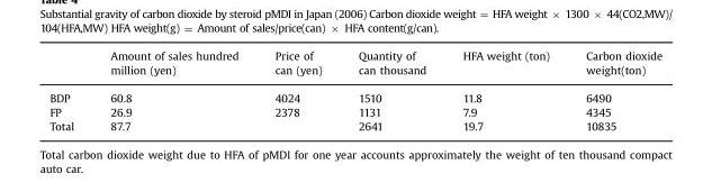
<table><thead><tr><td></td><td>Amount of sales hundred million (yen)</td><td>Price of can (yen)</td><td>Quantity of can thousand</td><td>HFA weight (ton)</td><td>Carbon dioxide weight(ton)</td></tr></thead><tbody><tr><td>BDP</td><td>60.8</td><td>4024</td><td>1510</td><td>11.8</td><td>6490</td></tr><tr><td>FP</td><td>26.9</td><td>2378</td><td>1131</td><td>7.9</td><td>4345</td></tr><tr><td>Total</td><td>87.7</td><td></td><td>2641</td><td>19.7</td><td>10835</td></tr></tbody></table>